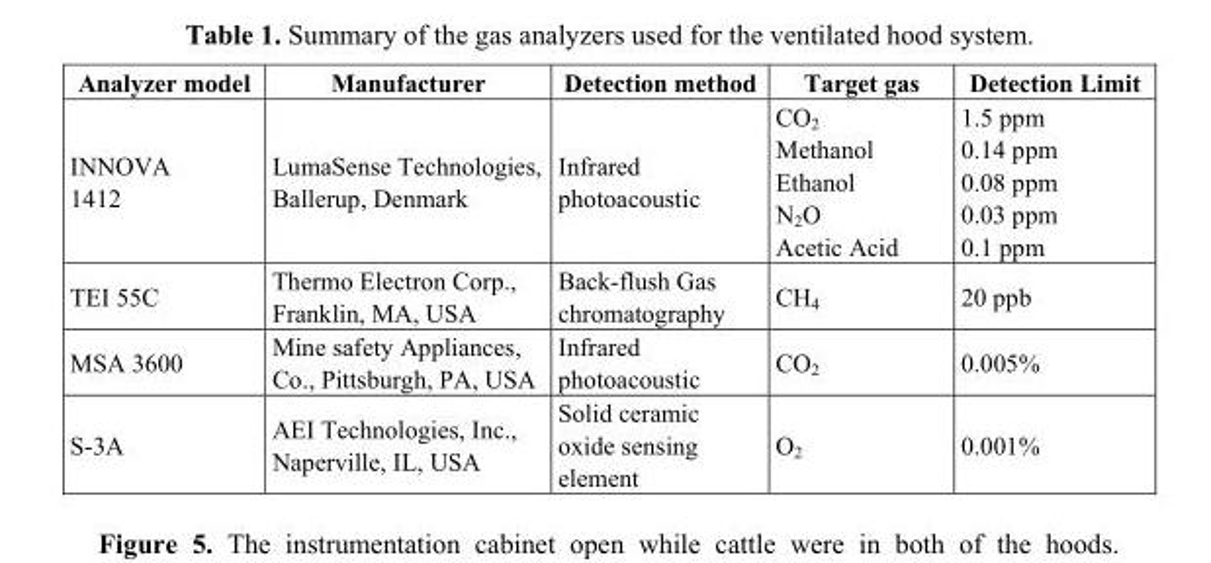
<table><thead><tr><td>Analyzer model</td><td>Manufacturer</td><td>Detection method</td><td>Target gas</td><td>Detection Limit</td></tr></thead><tbody><tr><td>INNOVA 1412</td><td>LumaSense Technologies, Ballerup, Denmark</td><td>Infrared photoacoustic</td><td>CO<sub>2</sub> Methanol Ethanol N<sub>2</sub>O Acetic Acid</td><td>1.5 ppm 0.14 ppm 0.08 ppm 0.03 ppm 0.1 ppm</td></tr><tr><td>TEI 55C</td><td>Thermo Electron Corp., Franklin, MA, USA</td><td>Back-flush Gas chromatography</td><td>CH<sub>4</sub></td><td>20 ppb</td></tr><tr><td>MSA 3600</td><td>Mine safety Appliances, Co., Pittsburgh, PA, USA</td><td>Infrared photoacoustic</td><td>CO<sub>2</sub></td><td>0.005%</td></tr><tr><td>S-3A</td><td>AEI Technologies, Inc., Naperville, IL, USA</td><td>Solid ceramic oxide sensing element</td><td>O<sub>2</sub></td><td>0.001%</td></tr></tbody></table>